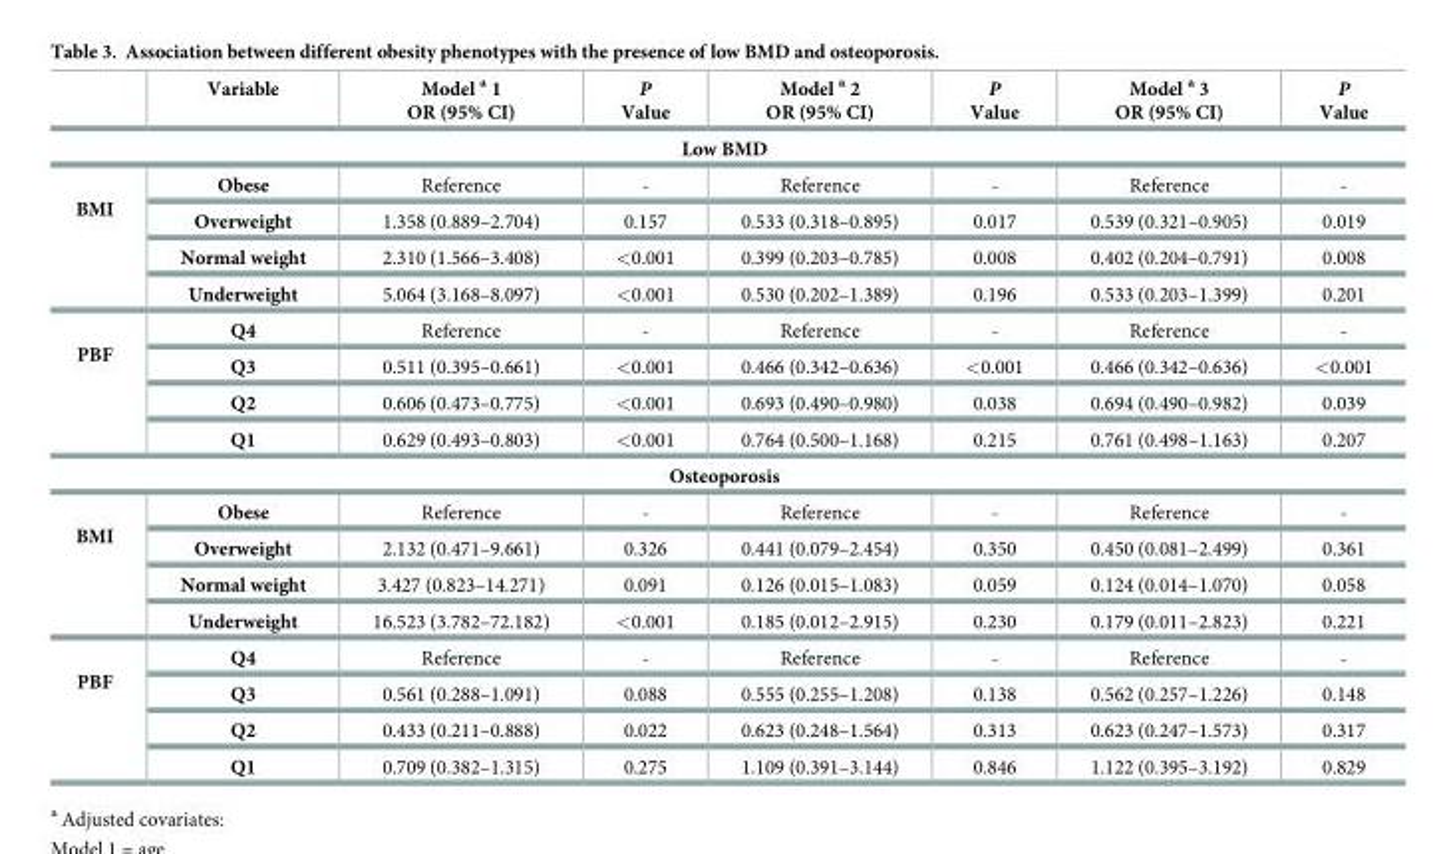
<table><thead><tr><td></td><td>Variable</td><td>Model <sup>a</sup> 1 OR (95% CI)</td><td>P Value</td><td>Model <sup>a</sup> 2 OR (95% CI)</td><td>P Value</td><td>Model <sup>a</sup> 3 OR (95% CI)</td><td>P Value</td></tr></thead><tbody><tr><td colspan="8">Low BMD</td></tr><tr><td rowspan="4">BMI</td><td>Obese</td><td>Reference</td><td>-</td><td>Reference</td><td>-</td><td>Reference</td><td>-</td></tr><tr><td>Overweight</td><td>1.358 (0.889–2.704)</td><td>0.157</td><td>0.533 (0.318–0.895)</td><td>0.017</td><td>0.539 (0.321–0.905)</td><td>0.019</td></tr><tr><td>Normal weight</td><td>2.310 (1.566–3.408)</td><td>&lt;0.001</td><td>0.399 (0.203–0.785)</td><td>0.008</td><td>0.402 (0.204–0.791)</td><td>0.008</td></tr><tr><td>Underweight</td><td>5.064 (3.168–8.097)</td><td>&lt;0.001</td><td>0.530 (0.202–1.389)</td><td>0.196</td><td>0.533 (0.203–1.399)</td><td>0.201</td></tr><tr><td rowspan="4">PBF</td><td>Q4</td><td>Reference</td><td>-</td><td>Reference</td><td>-</td><td>Reference</td><td>-</td></tr><tr><td>Q3</td><td>0.511 (0.395–0.661)</td><td>&lt;0.001</td><td>0.466 (0.342–0.636)</td><td>&lt;0.001</td><td>0.466 (0.342–0.636)</td><td>&lt;0.001</td></tr><tr><td>Q2</td><td>0.606 (0.473–0.775)</td><td>&lt;0.001</td><td>0.693 (0.490–0.980)</td><td>0.038</td><td>0.694 (0.490–0.982)</td><td>0.039</td></tr><tr><td>Q1</td><td>0.629 (0.493–0.803)</td><td>&lt;0.001</td><td>0.764 (0.500–1.168)</td><td>0.215</td><td>0.761 (0.498–1.163)</td><td>0.207</td></tr><tr><td colspan="8">Osteoporosis</td></tr><tr><td rowspan="4">BMI</td><td>Obese</td><td>Reference</td><td>-</td><td>Reference</td><td>-</td><td>Reference</td><td>-</td></tr><tr><td>Overweight</td><td>2.132 (0.471–9.661)</td><td>0.326</td><td>0.441 (0.079–2.454)</td><td>0.350</td><td>0.450 (0.081–2.499)</td><td>0.361</td></tr><tr><td>Normal weight</td><td>3.427 (0.823–14.271)</td><td>0.091</td><td>0.126 (0.015–1.083)</td><td>0.059</td><td>0.124 (0.014–1.070)</td><td>0.058</td></tr><tr><td>Underweight</td><td>16.523 (3.782–72.182)</td><td>&lt;0.001</td><td>0.185 (0.012–2.915)</td><td>0.230</td><td>0.179 (0.011–2.823)</td><td>0.221</td></tr><tr><td rowspan="4">PBF</td><td>Q4</td><td>Reference</td><td>-</td><td>Reference</td><td>-</td><td>Reference</td><td>-</td></tr><tr><td>Q3</td><td>0.561 (0.288–1.091)</td><td>0.088</td><td>0.555 (0.255–1.208)</td><td>0.138</td><td>0.562 (0.257–1.226)</td><td>0.148</td></tr><tr><td>Q2</td><td>0.433 (0.211–0.888)</td><td>0.022</td><td>0.623 (0.248–1.564)</td><td>0.313</td><td>0.623 (0.247–1.573)</td><td>0.317</td></tr><tr><td>Q1</td><td>0.709 (0.382–1.315)</td><td>0.275</td><td>1.109 (0.391–3.144)</td><td>0.846</td><td>1.122 (0.395–3.192)</td><td>0.829</td></tr></tbody></table>